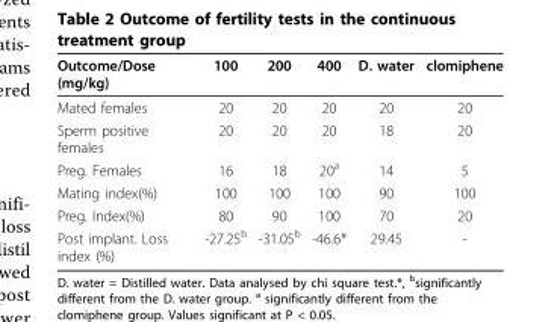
<table><thead><tr><td>Outcome/Dose (mg/kg)</td><td>100</td><td>200</td><td>400</td><td>D. water</td><td>clomiphene</td></tr></thead><tbody><tr><td>Mated females</td><td>20</td><td>20</td><td>20</td><td>20</td><td>20</td></tr><tr><td>Sperm positive females</td><td>20</td><td>20</td><td>20</td><td>18</td><td>20</td></tr><tr><td>Preg. Females</td><td>16</td><td>18</td><td>20<sup>a</sup></td><td>14</td><td>5</td></tr><tr><td>Mating index(%)</td><td>100</td><td>100</td><td>100</td><td>90</td><td>100</td></tr><tr><td>Preg. Index(%)</td><td>80</td><td>90</td><td>100</td><td>70</td><td>20</td></tr><tr><td>Post implant. Loss index (%)</td><td>-27.25<sup>b</sup></td><td>-31.05<sup>b</sup></td><td>-46.6*</td><td>29.45</td><td>-</td></tr></tbody></table>